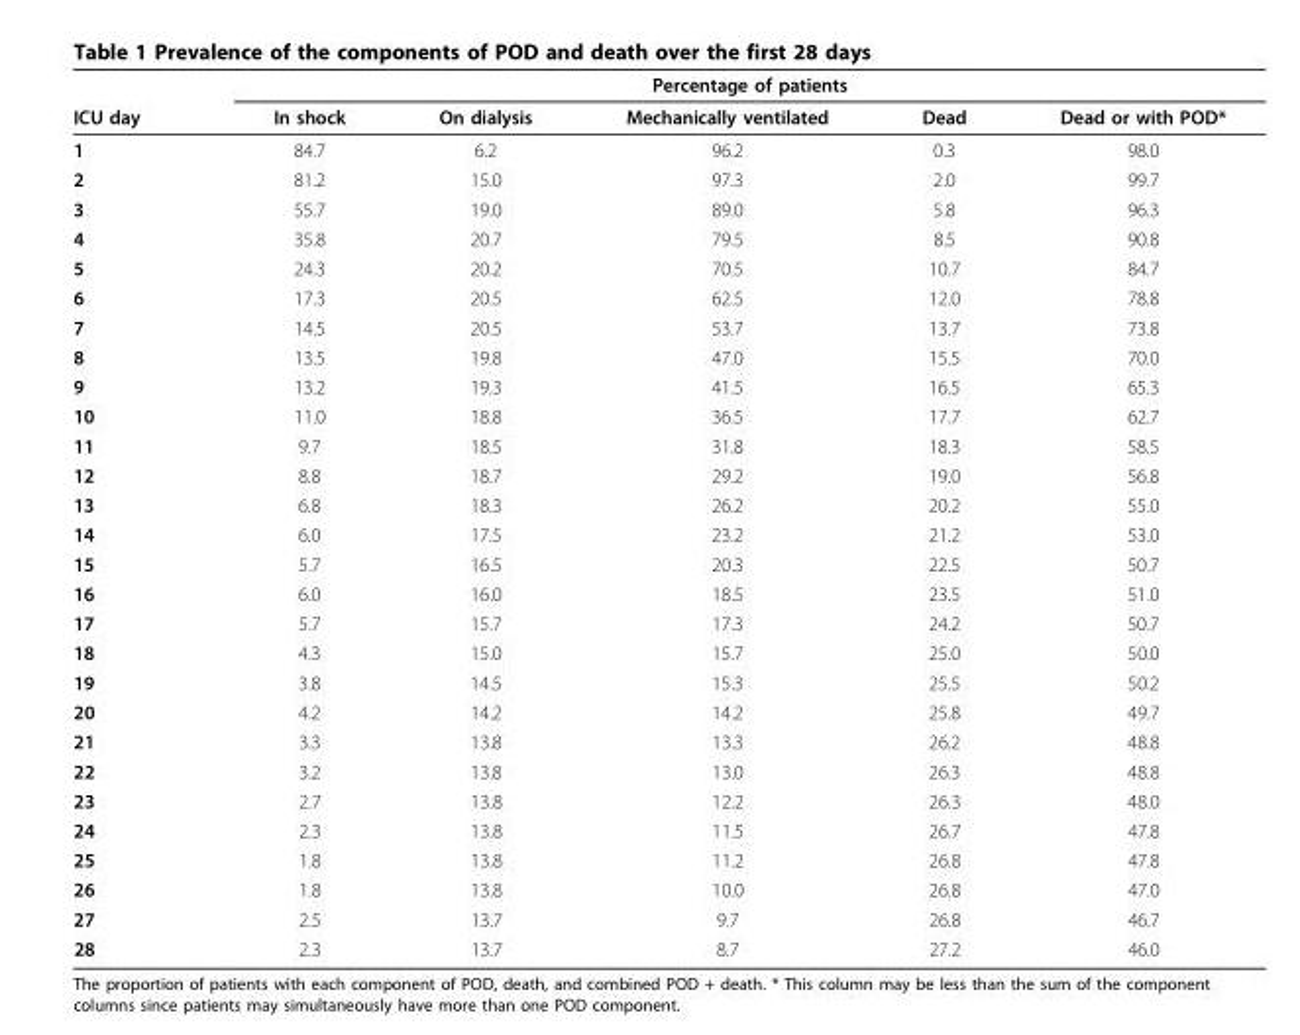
<table><thead><tr><td rowspan="2">ICU day</td><td colspan="5">Percentage of patients</td></tr><tr><td>In shock</td><td>On dialysis</td><td>Mechanically ventilated</td><td>Dead</td><td>Dead or with POD*</td></tr></thead><tbody><tr><td>1</td><td>84.7</td><td>6.2</td><td>96.2</td><td>0.3</td><td>98.0</td></tr><tr><td>2</td><td>81.2</td><td>15.0</td><td>97.3</td><td>2.0</td><td>99.7</td></tr><tr><td>3</td><td>55.7</td><td>19.0</td><td>89.0</td><td>5.8</td><td>96.3</td></tr><tr><td>4</td><td>35.8</td><td>20.7</td><td>79.5</td><td>8.5</td><td>90.8</td></tr><tr><td>5</td><td>24.3</td><td>20.2</td><td>70.5</td><td>10.7</td><td>84.7</td></tr><tr><td>6</td><td>17.3</td><td>20.5</td><td>62.5</td><td>12.0</td><td>78.8</td></tr><tr><td>7</td><td>14.5</td><td>20.5</td><td>53.7</td><td>13.7</td><td>73.8</td></tr><tr><td>8</td><td>13.5</td><td>19.8</td><td>47.0</td><td>15.5</td><td>70.0</td></tr><tr><td>9</td><td>13.2</td><td>19.3</td><td>41.5</td><td>16.5</td><td>65.3</td></tr><tr><td>10</td><td>11.0</td><td>18.8</td><td>36.5</td><td>17.7</td><td>62.7</td></tr><tr><td>11</td><td>9.7</td><td>18.5</td><td>31.8</td><td>18.3</td><td>58.5</td></tr><tr><td>12</td><td>8.8</td><td>18.7</td><td>29.2</td><td>19.0</td><td>56.8</td></tr><tr><td>13</td><td>6.8</td><td>18.3</td><td>26.2</td><td>20.2</td><td>55.0</td></tr><tr><td>14</td><td>6.0</td><td>17.5</td><td>23.2</td><td>21.2</td><td>53.0</td></tr><tr><td>15</td><td>5.7</td><td>16.5</td><td>20.3</td><td>22.5</td><td>50.7</td></tr><tr><td>16</td><td>6.0</td><td>16.0</td><td>18.5</td><td>23.5</td><td>51.0</td></tr><tr><td>17</td><td>5.7</td><td>15.7</td><td>17.3</td><td>24.2</td><td>50.7</td></tr><tr><td>18</td><td>4.3</td><td>15.0</td><td>15.7</td><td>25.0</td><td>50.0</td></tr><tr><td>19</td><td>3.8</td><td>14.5</td><td>15.3</td><td>25.5</td><td>50.2</td></tr><tr><td>20</td><td>4.2</td><td>14.2</td><td>14.2</td><td>25.8</td><td>49.7</td></tr><tr><td>21</td><td>3.3</td><td>13.8</td><td>13.3</td><td>26.2</td><td>48.8</td></tr><tr><td>22</td><td>3.2</td><td>13.8</td><td>13.0</td><td>26.3</td><td>48.8</td></tr><tr><td>23</td><td>2.7</td><td>13.8</td><td>12.2</td><td>26.3</td><td>48.0</td></tr><tr><td>24</td><td>2.3</td><td>13.8</td><td>11.5</td><td>26.7</td><td>47.8</td></tr><tr><td>25</td><td>1.8</td><td>13.8</td><td>11.2</td><td>26.8</td><td>47.8</td></tr><tr><td>26</td><td>1.8</td><td>13.8</td><td>10.0</td><td>26.8</td><td>47.0</td></tr><tr><td>27</td><td>2.5</td><td>13.7</td><td>9.7</td><td>26.8</td><td>46.7</td></tr><tr><td>28</td><td>2.3</td><td>13.7</td><td>8.7</td><td>27.2</td><td>46.0</td></tr></tbody></table>